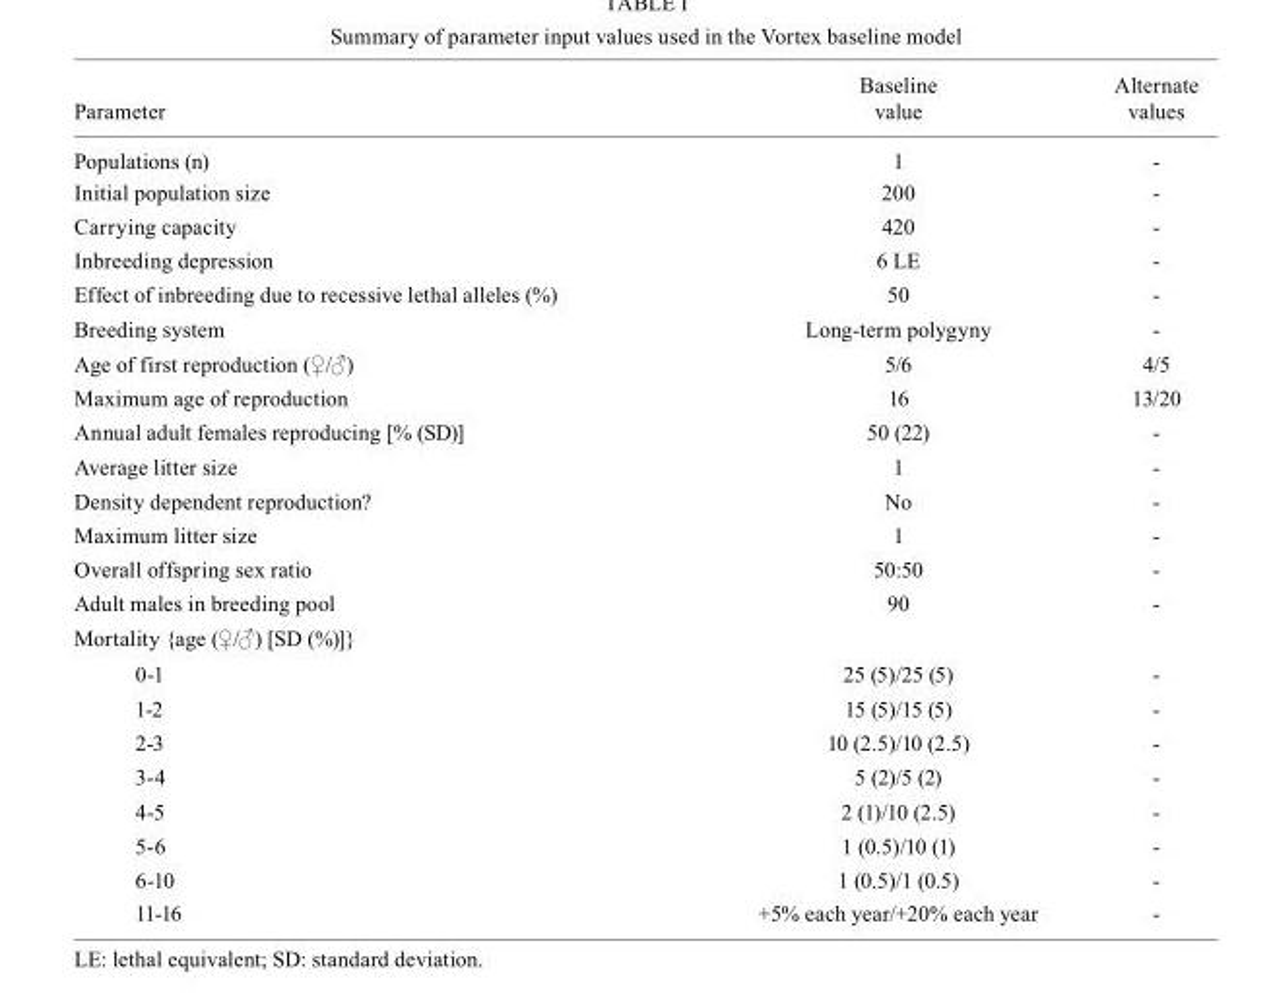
<table><thead><tr><td>Parameter</td><td>Baseline value</td><td>Alternate values</td></tr></thead><tbody><tr><td>Populations (n)</td><td>1</td><td>-</td></tr><tr><td>Initial population size</td><td>200</td><td>-</td></tr><tr><td>Carrying capacity</td><td>420</td><td>-</td></tr><tr><td>Inbreeding depression</td><td>6 LE</td><td>-</td></tr><tr><td>Effect of inbreeding due to recessive lethal alleles (%)</td><td>50</td><td>-</td></tr><tr><td>Breeding system</td><td>Long-term polygyny</td><td>-</td></tr><tr><td>Age of first reproduction (♀/♂)</td><td>5/6</td><td>4/5</td></tr><tr><td>Maximum age of reproduction</td><td>16</td><td>13/20</td></tr><tr><td>Annual adult females reproducing [% (SD)]</td><td>50 (22)</td><td>-</td></tr><tr><td>Average litter size</td><td>1</td><td>-</td></tr><tr><td>Density dependent reproduction?</td><td>No</td><td>-</td></tr><tr><td>Maximum litter size</td><td>1</td><td>-</td></tr><tr><td>Overall offspring sex ratio</td><td>50:50</td><td>-</td></tr><tr><td>Adult males in breeding pool</td><td>90</td><td>-</td></tr><tr><td colspan="3">Mortality {age (♀/♂) [SD (%)]}</td></tr><tr><td>0-1</td><td>25 (5)/25 (5)</td><td>-</td></tr><tr><td>1-2</td><td>15 (5)/15 (5)</td><td>-</td></tr><tr><td>2-3</td><td>10 (2.5)/10 (2.5)</td><td>-</td></tr><tr><td>3-4</td><td>5 (2)/5 (2)</td><td>-</td></tr><tr><td>4-5</td><td>2 (1)/10 (2.5)</td><td>-</td></tr><tr><td>5-6</td><td>1 (0.5)/10 (1)</td><td>-</td></tr><tr><td>6-10</td><td>1 (0.5)/1 (0.5)</td><td>-</td></tr><tr><td>11-16</td><td>+5% each year/+20% each year</td><td>-</td></tr></tbody></table>